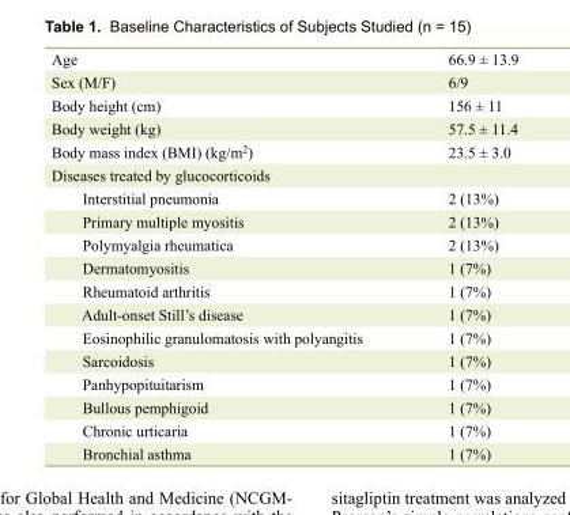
<table><tbody><tr><td>Age</td><td>66.9 ± 13.9</td></tr><tr><td>Sex (M/F)</td><td>6/9</td></tr><tr><td>Body height (cm)</td><td>156 ± 11</td></tr><tr><td>Body weight (kg)</td><td>57.5 ± 11.4</td></tr><tr><td>Body mass index (BMI) (kg/m<sup>2</sup>)</td><td>23.5 ± 3.0</td></tr><tr><td colspan="2">Diseases treated by glucocorticoids</td></tr><tr><td>Interstitial pneumonia</td><td>2 (13%)</td></tr><tr><td>Primary multiple myositis</td><td>2 (13%)</td></tr><tr><td>Polymyalgia rheumatica</td><td>2 (13%)</td></tr><tr><td>Dermatomyositis</td><td>1 (7%)</td></tr><tr><td>Rheumatoid arthritis</td><td>1 (7%)</td></tr><tr><td>Adult-onset Still’s disease</td><td>1 (7%)</td></tr><tr><td>Eosinophilic granulomatosis with polyangitis</td><td>1 (7%)</td></tr><tr><td>Sarcoidosis</td><td>1 (7%)</td></tr><tr><td>Panhypopituitarism</td><td>1 (7%)</td></tr><tr><td>Bullous pemphigoid</td><td>1 (7%)</td></tr><tr><td>Chronic urticaria</td><td>1 (7%)</td></tr><tr><td>Bronchial asthma</td><td>1 (7%)</td></tr></tbody></table>